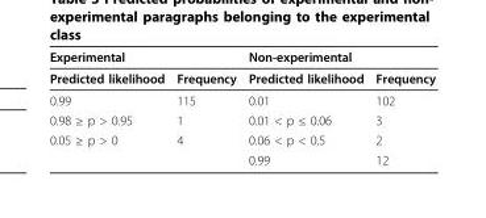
<table><thead><tr><td colspan="2">Experimental</td><td colspan="2">Non-experimental</td></tr><tr><td>Predicted likelihood</td><td>Frequency</td><td>Predicted likelihood</td><td>Frequency</td></tr></thead><tbody><tr><td>0.99</td><td>115</td><td>0.01</td><td>102</td></tr><tr><td>0.98 ≥ p &gt; 0.95</td><td>1</td><td>0.01 &lt; p ≤ 0.06</td><td>3</td></tr><tr><td rowspan="2">0.05 ≥ p &gt; 0</td><td>4</td><td>0.06 &lt; p &lt; 0.5</td><td>2</td></tr><tr><td></td><td>0.99</td><td>12</td></tr></tbody></table>